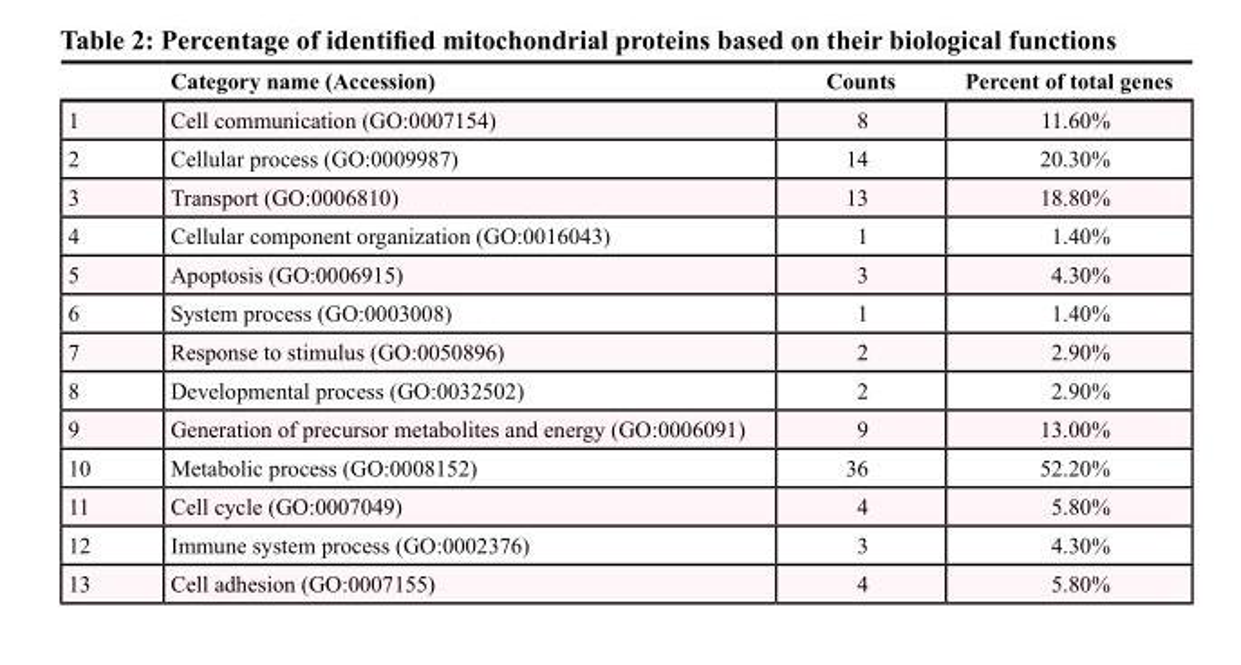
<table><thead><tr><td></td><td>Category name (Accession)</td><td>Counts</td><td>Percent of total genes</td></tr></thead><tbody><tr><td>1</td><td>Cell communication (GO:0007154)</td><td>8</td><td>11.60%</td></tr><tr><td>2</td><td>Cellular process (GO:0009987)</td><td>14</td><td>20.30%</td></tr><tr><td>3</td><td>Transport (GO:0006810)</td><td>13</td><td>18.80%</td></tr><tr><td>4</td><td>Cellular component organization (GO:0016043)</td><td>1</td><td>1.40%</td></tr><tr><td>5</td><td>Apoptosis (GO:0006915)</td><td>3</td><td>4.30%</td></tr><tr><td>6</td><td>System process (GO:0003008)</td><td>1</td><td>1.40%</td></tr><tr><td>7</td><td>Response to stimulus (GO:0050896)</td><td>2</td><td>2.90%</td></tr><tr><td>8</td><td>Developmental process (GO:0032502)</td><td>2</td><td>2.90%</td></tr><tr><td>9</td><td>Generation of precursor metabolites and energy (GO:0006091)</td><td>9</td><td>13.00%</td></tr><tr><td>10</td><td>Metabolic process (GO:0008152)</td><td>36</td><td>52.20%</td></tr><tr><td>11</td><td>Cell cycle (GO:0007049)</td><td>4</td><td>5.80%</td></tr><tr><td>12</td><td>Immune system process (GO:0002376)</td><td>3</td><td>4.30%</td></tr><tr><td>13</td><td>Cell adhesion (GO:0007155)</td><td>4</td><td>5.80%</td></tr></tbody></table>